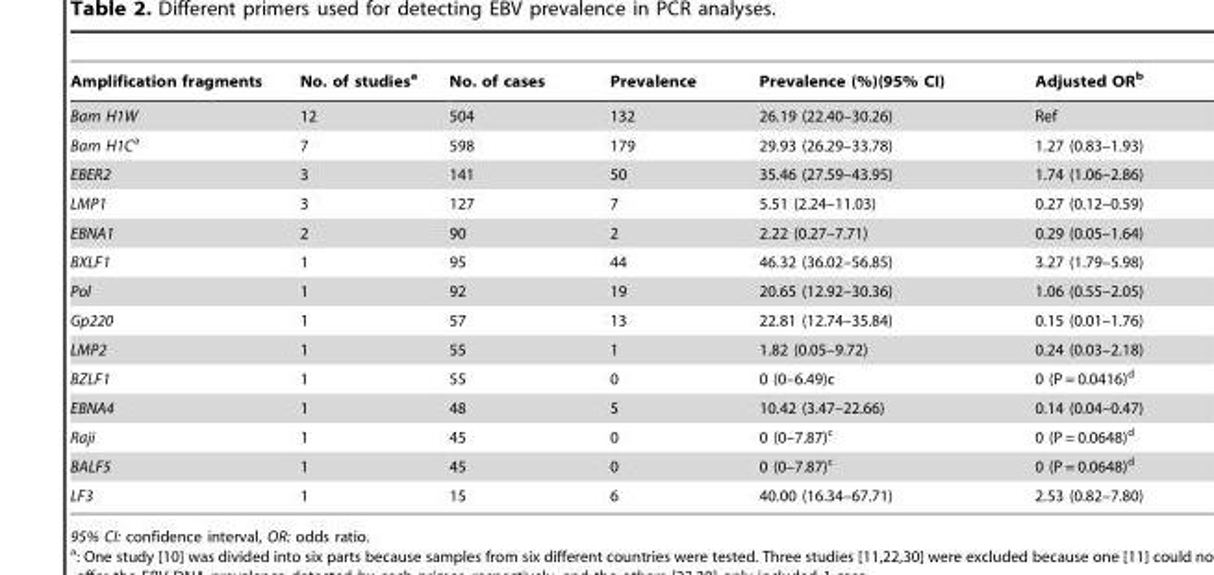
<table><thead><tr><td>Amplification fragments</td><td>No. of studies<sup>a</sup></td><td>No. of cases</td><td>Prevalence</td><td>Prevalence (%)(95% CI)</td><td>Adjusted OR<sup>b</sup></td></tr></thead><tbody><tr><td>Bam H1W</td><td>12</td><td>504</td><td>132</td><td>26.19 (22.40–30.26)</td><td>Ref</td></tr><tr><td>Bam H1Ca</td><td>7</td><td>598</td><td>179</td><td>29.93 (26.29–33.78)</td><td>1.27 (0.83–1.93)</td></tr><tr><td>EBER2</td><td>3</td><td>141</td><td>50</td><td>35.46 (27.59–43.95)</td><td>1.74 (1.06–2.86)</td></tr><tr><td>LMP1</td><td>3</td><td>127</td><td>7</td><td>5.51 (2.24–11.03)</td><td>0.27 (0.12–0.59)</td></tr><tr><td>EBNA1</td><td>2</td><td>90</td><td>2</td><td>2.22 (0.27–7.71)</td><td>0.29 (0.05–1.64)</td></tr><tr><td>BXLF1</td><td>1</td><td>95</td><td>44</td><td>46.32 (36.02–56.85)</td><td>3.27 (1.79–5.98)</td></tr><tr><td>Pol</td><td>1</td><td>92</td><td>19</td><td>20.65 (12.92–30.36)</td><td>1.06 (0.55–2.05)</td></tr><tr><td>Gp220</td><td>1</td><td>57</td><td>13</td><td>22.81 (12.74–35.84)</td><td>0.15 (0.01–1.76)</td></tr><tr><td>LMP2</td><td>1</td><td>55</td><td>1</td><td>1.82 (0.05–9.72)</td><td>0.24 (0.03–2.18)</td></tr><tr><td>BZLF1</td><td>1</td><td>55</td><td>0</td><td>0 (0–6.49)c</td><td>0 (P = 0.0416)<sup>d</sup></td></tr><tr><td>EBNA4</td><td>1</td><td>48</td><td>5</td><td>10.42 (3.47–22.66)</td><td>0.14 (0.04–0.47)</td></tr><tr><td>Raji</td><td>1</td><td>45</td><td>0</td><td>0 (0–7.87)<sup>c</sup></td><td>0 (P = 0.0648)<sup>d</sup></td></tr><tr><td>BALF5</td><td>1</td><td>45</td><td>0</td><td>0 (0–7.87)<sup>c</sup></td><td>0 (P = 0.0648)<sup>d</sup></td></tr><tr><td>LF3</td><td>1</td><td>15</td><td>6</td><td>40.00 (16.34–67.71)</td><td>2.53 (0.82–7.80)</td></tr></tbody></table>